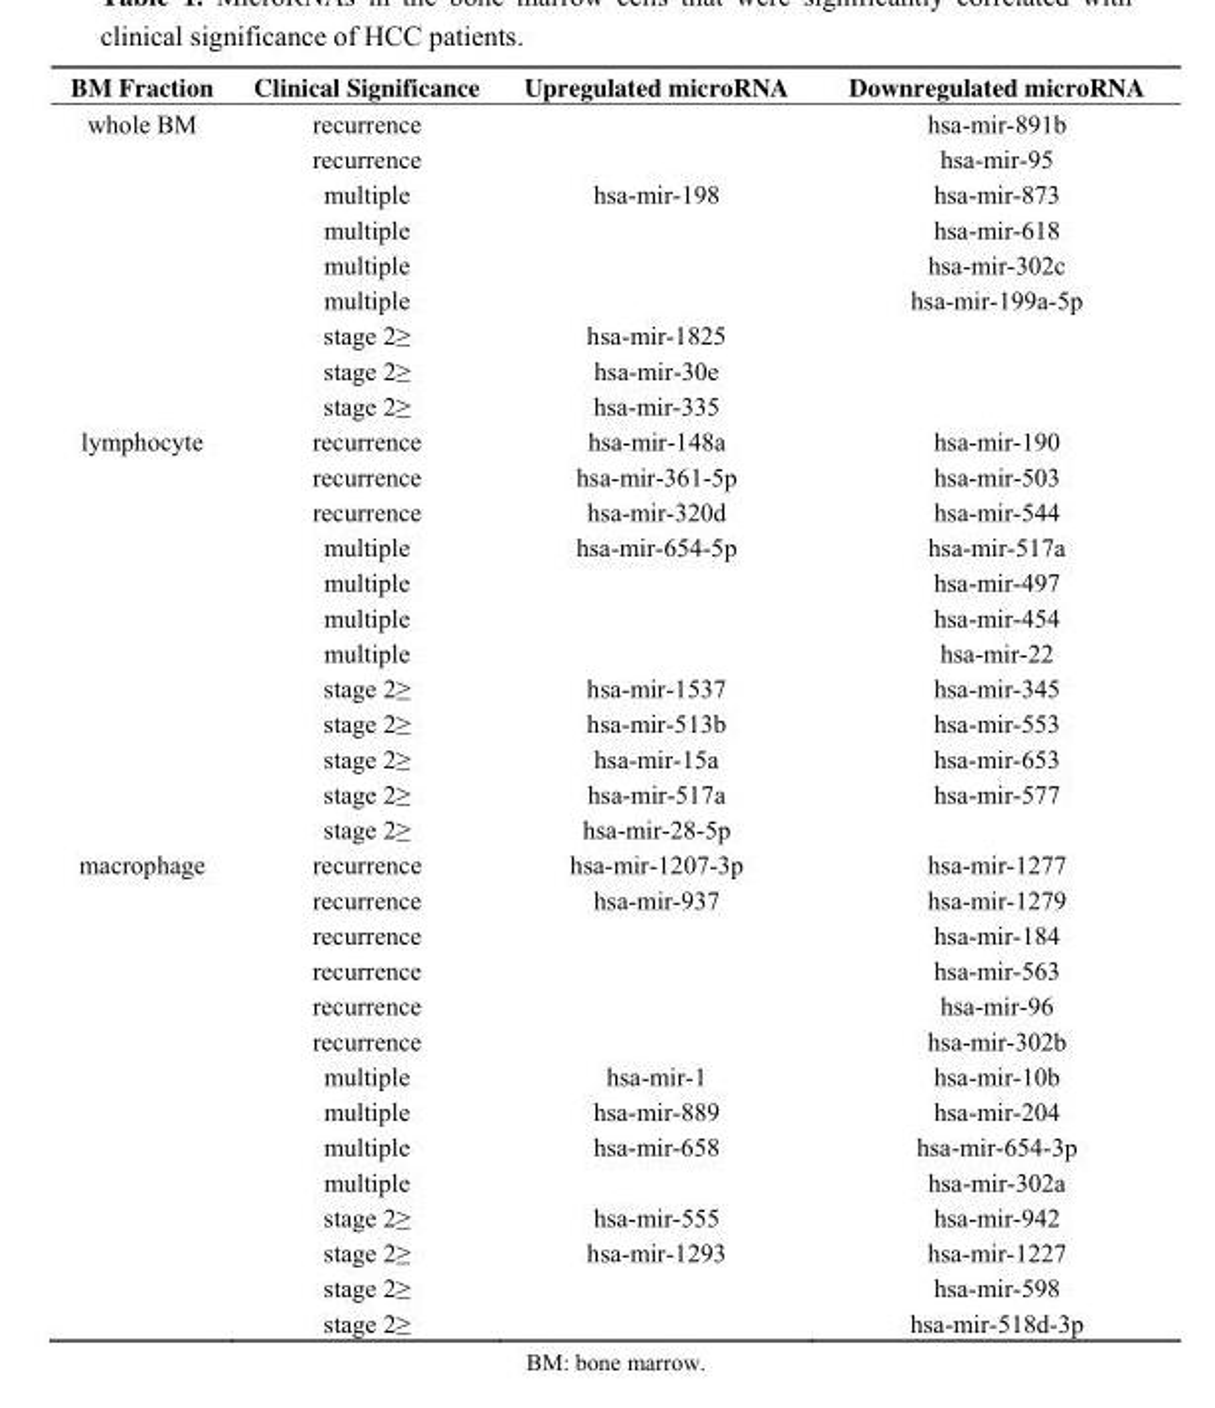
<table><thead><tr><td>BM Fraction</td><td>Clinical Significance</td><td>Upregulated microRNA</td><td>Downregulated microRNA</td></tr></thead><tbody><tr><td rowspan="9">whole BM</td><td>recurrence</td><td></td><td>hsa-mir-891b</td></tr><tr><td>recurrence</td><td></td><td>hsa-mir-95</td></tr><tr><td>multiple</td><td>hsa-mir-198</td><td>hsa-mir-873</td></tr><tr><td>multiple</td><td></td><td>hsa-mir-618</td></tr><tr><td>multiple</td><td></td><td>hsa-mir-302c</td></tr><tr><td>multiple</td><td></td><td>hsa-mir-199a-5p</td></tr><tr><td>stage 2≥</td><td>hsa-mir-1825</td><td></td></tr><tr><td>stage 2≥</td><td>hsa-mir-30e</td><td></td></tr><tr><td>stage 2≥</td><td>hsa-mir-335</td><td></td></tr><tr><td rowspan="12">lymphocyte</td><td>recurrence</td><td>hsa-mir-148a</td><td>hsa-mir-190</td></tr><tr><td>recurrence</td><td>hsa-mir-361-5p</td><td>hsa-mir-503</td></tr><tr><td>recurrence</td><td>hsa-mir-320d</td><td>hsa-mir-544</td></tr><tr><td>multiple</td><td>hsa-mir-654-5p</td><td>hsa-mir-517a</td></tr><tr><td>multiple</td><td></td><td>hsa-mir-497</td></tr><tr><td>multiple</td><td></td><td>hsa-mir-454</td></tr><tr><td>multiple</td><td></td><td>hsa-mir-22</td></tr><tr><td>stage 2≥</td><td>hsa-mir-1537</td><td>hsa-mir-345</td></tr><tr><td>stage 2≥</td><td>hsa-mir-513b</td><td>hsa-mir-553</td></tr><tr><td>stage 2≥</td><td>hsa-mir-15a</td><td>hsa-mir-653</td></tr><tr><td>stage 2≥</td><td>hsa-mir-517a</td><td>hsa-mir-577</td></tr><tr><td>stage 2≥</td><td>hsa-mir-28-5p</td><td></td></tr><tr><td rowspan="14">macrophage</td><td>recurrence</td><td>hsa-mir-1207-3p</td><td>hsa-mir-1277</td></tr><tr><td>recurrence</td><td>hsa-mir-937</td><td>hsa-mir-1279</td></tr><tr><td>recurrence</td><td></td><td>hsa-mir-184</td></tr><tr><td>recurrence</td><td></td><td>hsa-mir-563</td></tr><tr><td>recurrence</td><td></td><td>hsa-mir-96</td></tr><tr><td>recurrence</td><td></td><td>hsa-mir-302b</td></tr><tr><td>multiple</td><td>hsa-mir-1</td><td>hsa-mir-10b</td></tr><tr><td>multiple</td><td>hsa-mir-889</td><td>hsa-mir-204</td></tr><tr><td>multiple</td><td>hsa-mir-658</td><td>hsa-mir-654-3p</td></tr><tr><td>multiple</td><td></td><td>hsa-mir-302a</td></tr><tr><td>stage 2≥</td><td>hsa-mir-555</td><td>hsa-mir-942</td></tr><tr><td>stage 2≥</td><td>hsa-mir-1293</td><td>hsa-mir-1227</td></tr><tr><td>stage 2≥</td><td></td><td>hsa-mir-598</td></tr><tr><td>stage 2≥</td><td></td><td>hsa-mir-518d-3p</td></tr></tbody></table>